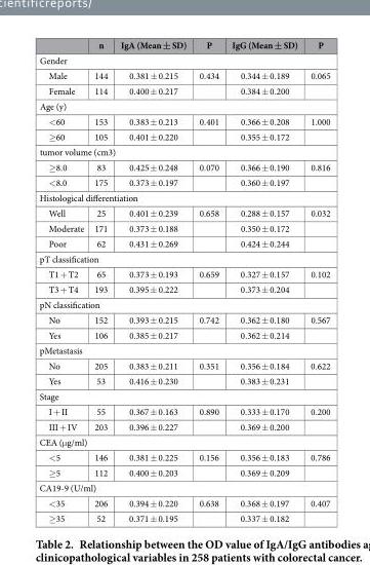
<table><thead><tr><td></td><td>n</td><td>IgA (Mean ± SD)</td><td>P</td><td>IgG (Mean ± SD)</td><td>P</td></tr></thead><tbody><tr><td colspan="6">Gender</td></tr><tr><td>Male</td><td>144</td><td>0.381 ± 0.215</td><td>0.434</td><td>0.344 ± 0.189</td><td>0.065</td></tr><tr><td>Female</td><td>114</td><td>0.400 ± 0.217</td><td></td><td>0.384 ± 0.200</td><td></td></tr><tr><td colspan="6">Age (y)</td></tr><tr><td>&lt; 60</td><td>153</td><td>0.383 ± 0.213</td><td>0.401</td><td>0.366 ± 0.208</td><td>1.000</td></tr><tr><td>≥ 60</td><td>105</td><td>0.401 ± 0.220</td><td></td><td>0.355 ± 0.172</td><td></td></tr><tr><td colspan="6">tumor volume (cm3)</td></tr><tr><td>≥ 8.0</td><td>83</td><td>0.425 ± 0.248</td><td>0.070</td><td>0.366 ± 0.190</td><td>0.816</td></tr><tr><td>&lt; 8.0</td><td>175</td><td>0.373 ± 0.197</td><td></td><td>0.360 ± 0.197</td><td></td></tr><tr><td colspan="6">Histological differentiation</td></tr><tr><td>Well</td><td>25</td><td>0.401 ± 0.239</td><td>0.658</td><td>0.288 ± 0.157</td><td>0.032</td></tr><tr><td>Moderate</td><td>171</td><td>0.373 ± 0.188</td><td></td><td>0.350 ± 0.172</td><td></td></tr><tr><td>Poor</td><td>62</td><td>0.431 ± 0.269</td><td></td><td>0.424 ± 0.244</td><td></td></tr><tr><td colspan="6">pT classification</td></tr><tr><td>T1 + T2</td><td>65</td><td>0.373 ± 0.193</td><td>0.659</td><td>0.327 ± 0.157</td><td>0.102</td></tr><tr><td>T3 + T4</td><td>193</td><td>0.395 ± 0.222</td><td></td><td>0.373 ± 0.204</td><td></td></tr><tr><td colspan="6">pN classification</td></tr><tr><td>No</td><td>152</td><td>0.393 ± 0.215</td><td>0.742</td><td>0.362 ± 0.180</td><td>0.567</td></tr><tr><td>Yes</td><td>106</td><td>0.385 ± 0.217</td><td></td><td>0.362 ± 0.214</td><td></td></tr><tr><td colspan="6">pMetastasis</td></tr><tr><td>No</td><td>205</td><td>0.383 ± 0.211</td><td>0.351</td><td>0.356 ± 0.184</td><td>0.622</td></tr><tr><td>Yes</td><td>53</td><td>0.416 ± 0.230</td><td></td><td>0.383 ± 0.231</td><td></td></tr><tr><td colspan="6">Stage</td></tr><tr><td>I + II</td><td>55</td><td>0.367 ± 0.163</td><td>0.890</td><td>0.333 ± 0.170</td><td>0.200</td></tr><tr><td>III + IV</td><td>203</td><td>0.396 ± 0.227</td><td></td><td>0.369 ± 0.200</td><td></td></tr><tr><td colspan="6">CEA (μ g/ml)</td></tr><tr><td>&lt; 5</td><td>146</td><td>0.381 ± 0.225</td><td>0.156</td><td>0.356 ± 0.183</td><td>0.786</td></tr><tr><td>≥ 5</td><td>112</td><td>0.400 ± 0.203</td><td></td><td>0.369 ± 0.209</td><td></td></tr><tr><td colspan="6">CA19-9 (U/ml)</td></tr><tr><td>&lt; 35</td><td>206</td><td>0.394 ± 0.220</td><td>0.638</td><td>0.368 ± 0.197</td><td>0.407</td></tr><tr><td>≥ 35</td><td>52</td><td>0.371 ± 0.195</td><td></td><td>0.337 ± 0.182</td><td></td></tr></tbody></table>